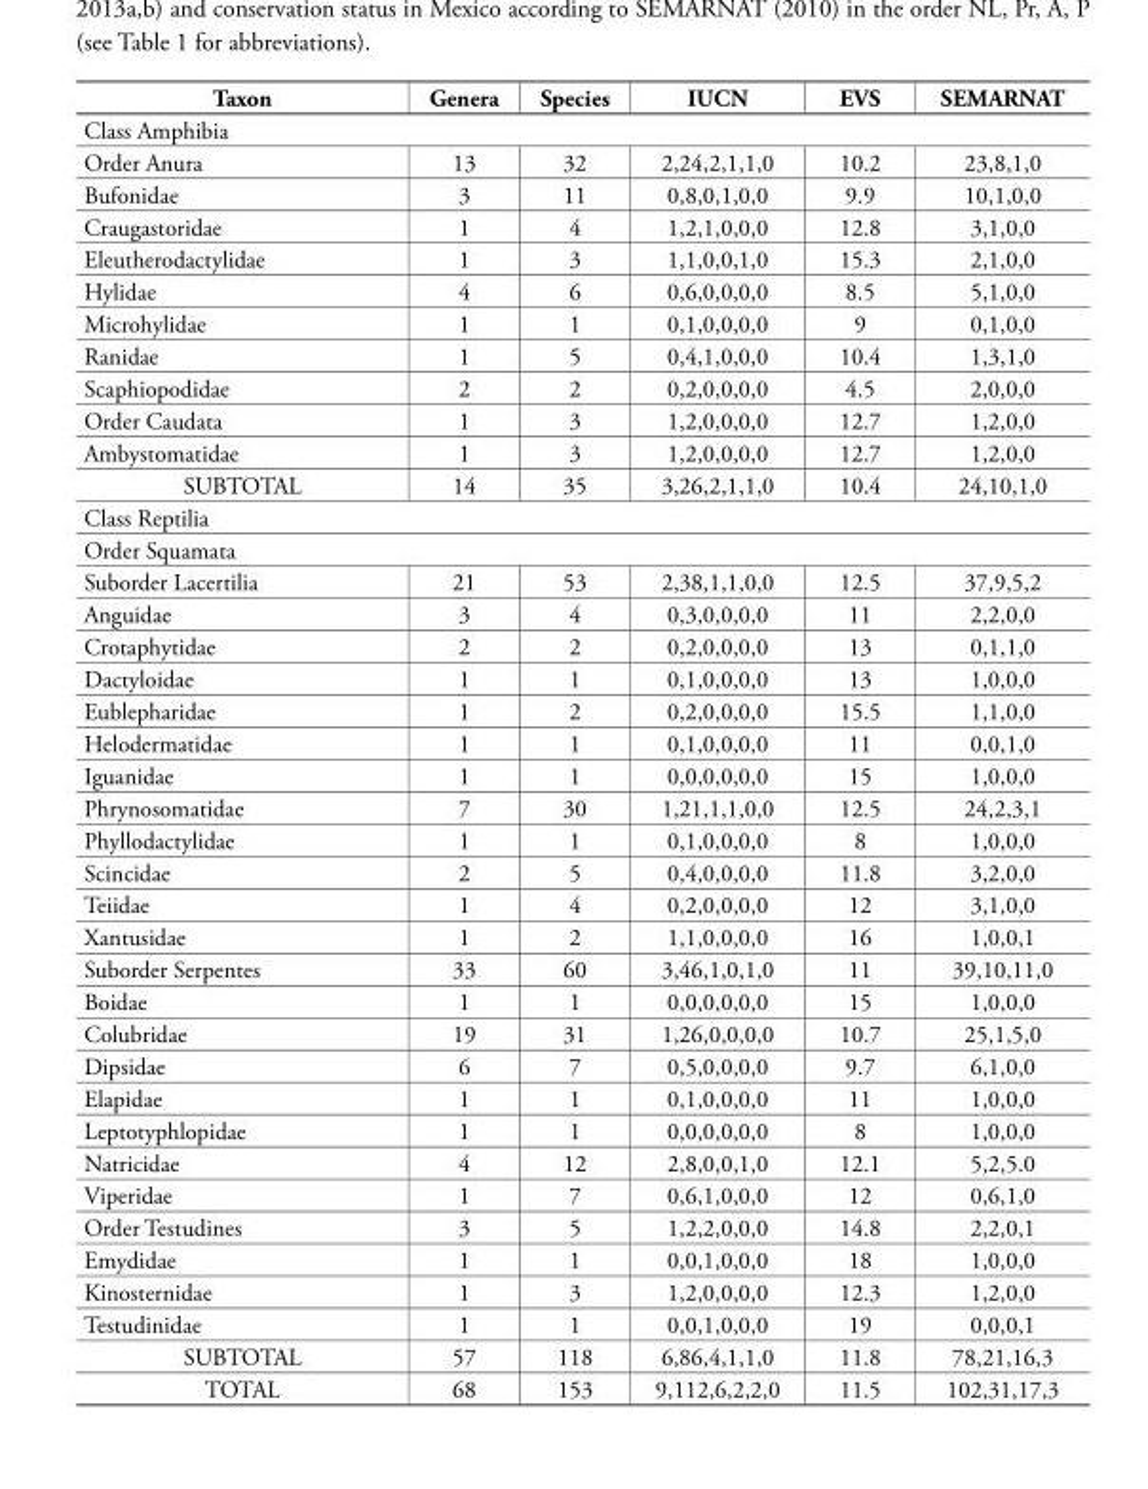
<table><thead><tr><td>Taxon</td><td>Genera</td><td>Species</td><td>IUCN</td><td>EVS</td><td>SEMARNAT</td></tr></thead><tbody><tr><td colspan="6">Class Amphibia</td></tr><tr><td>Order Anura</td><td>13</td><td>32</td><td>2,24,2,1,1,0</td><td>10.2</td><td>23,8,1,0</td></tr><tr><td>Bufonidae</td><td>3</td><td>11</td><td>0,8,0,1,0,0</td><td>9.9</td><td>10,1,0,0</td></tr><tr><td>Craugastoridae</td><td>1</td><td>4</td><td>1,2,1,0,0,0</td><td>12.8</td><td>3,1,0,0</td></tr><tr><td>Eleutherodactylidae</td><td>1</td><td>3</td><td>1,1,0,0,1,0</td><td>15.3</td><td>2,1,0,0</td></tr><tr><td>Hylidae</td><td>4</td><td>6</td><td>0,6,0,0,0,0</td><td>8.5</td><td>5,1,0,0</td></tr><tr><td>Microhylidae</td><td>1</td><td>1</td><td>0,1,0,0,0,0</td><td>9</td><td>0,1,0,0</td></tr><tr><td>Ranidae</td><td>1</td><td>5</td><td>0,4,1,0,0,0</td><td>10.4</td><td>1,3,1,0</td></tr><tr><td>Scaphiopodidae</td><td>2</td><td>2</td><td>0,2,0,0,0,0</td><td>4.5</td><td>2,0,0,0</td></tr><tr><td>Order Caudata</td><td>1</td><td>3</td><td>1,2,0,0,0,0</td><td>12.7</td><td>1,2,0,0</td></tr><tr><td>Ambystomatidae</td><td>1</td><td>3</td><td>1,2,0,0,0,0</td><td>12.7</td><td>1,2,0,0</td></tr><tr><td>SUBTOTAL</td><td>14</td><td>35</td><td>3,26,2,1,1,0</td><td>10.4</td><td>24,10,1,0</td></tr><tr><td colspan="6">Class Reptilia</td></tr><tr><td colspan="6">Order Squamata</td></tr><tr><td>Suborder Lacertilia</td><td>21</td><td>53</td><td>2,38,1,1,0,0</td><td>12.5</td><td>37,9,5,2</td></tr><tr><td>Anguidae</td><td>3</td><td>4</td><td>0,3,0,0,0,0</td><td>11</td><td>2,2,0,0</td></tr><tr><td>Crotaphytidae</td><td>2</td><td>2</td><td>0,2,0,0,0,0</td><td>13</td><td>0,1,1,0</td></tr><tr><td>Dactyloidae</td><td>1</td><td>1</td><td>0,1,0,0,0,0</td><td>13</td><td>1,0,0,0</td></tr><tr><td>Eublepharidae</td><td>1</td><td>2</td><td>0,2,0,0,0,0</td><td>15.5</td><td>1,1,0,0</td></tr><tr><td>Helodermatidae</td><td>1</td><td>1</td><td>0,1,0,0,0,0</td><td>11</td><td>0,0,1,0</td></tr><tr><td>Iguanidae</td><td>1</td><td>1</td><td>0,0,0,0,0,0</td><td>15</td><td>1,0,0,0</td></tr><tr><td>Phrynosomatidae</td><td>7</td><td>30</td><td>1,21,1,1,0,0</td><td>12.5</td><td>24,2,3,1</td></tr><tr><td>Phyllodactylidae</td><td>1</td><td>1</td><td>0,1,0,0,0,0</td><td>8</td><td>1,0,0,0</td></tr><tr><td>Scincidae</td><td>2</td><td>5</td><td>0,4,0,0,0,0</td><td>11.8</td><td>3,2,0,0</td></tr><tr><td>Teiidae</td><td>1</td><td>4</td><td>0,2,0,0,0,0</td><td>12</td><td>3,1,0,0</td></tr><tr><td>Xantusidae</td><td>1</td><td>2</td><td>1,1,0,0,0,0</td><td>16</td><td>1,0,0,1</td></tr><tr><td>Suborder Serpentes</td><td>33</td><td>60</td><td>3,46,1,0,1,0</td><td>11</td><td>39,10,11,0</td></tr><tr><td>Boidae</td><td>1</td><td>1</td><td>0,0,0,0,0,0</td><td>15</td><td>1,0,0,0</td></tr><tr><td>Colubridae</td><td>19</td><td>31</td><td>1,26,0,0,0,0</td><td>10.7</td><td>25,1,5,0</td></tr><tr><td>Dipsidae</td><td>6</td><td>7</td><td>0,5,0,0,0,0</td><td>9.7</td><td>6,1,0,0</td></tr><tr><td>Elapidae</td><td>1</td><td>1</td><td>0,1,0,0,0,0</td><td>11</td><td>1,0,0,0</td></tr><tr><td>Leptotyphlopidae</td><td>1</td><td>1</td><td>0,0,0,0,0,0</td><td>8</td><td>1,0,0,0</td></tr><tr><td>Natricidae</td><td>4</td><td>12</td><td>2,8,0,0,1,0</td><td>12.1</td><td>5,2,5.0</td></tr><tr><td>Viperidae</td><td>1</td><td>7</td><td>0,6,1,0,0,0</td><td>12</td><td>0,6,1,0</td></tr><tr><td>Order Testudines</td><td>3</td><td>5</td><td>1,2,2,0,0,0</td><td>14.8</td><td>2,2,0,1</td></tr><tr><td>Emydidae</td><td>1</td><td>1</td><td>0,0,1,0,0,0</td><td>18</td><td>1,0,0,0</td></tr><tr><td>Kinosternidae</td><td>1</td><td>3</td><td>1,2,0,0,0,0</td><td>12.3</td><td>1,2,0,0</td></tr><tr><td>Testudinidae</td><td>1</td><td>1</td><td>0,0,1,0,0,0</td><td>19</td><td>0,0,0,1</td></tr><tr><td>SUBTOTAL</td><td>57</td><td>118</td><td>6,86,4,1,1,0</td><td>11.8</td><td>78,21,16,3</td></tr><tr><td>TOTAL</td><td>68</td><td>153</td><td>9,112,6,2,2,0</td><td>11.5</td><td>102,31,17,3</td></tr></tbody></table>